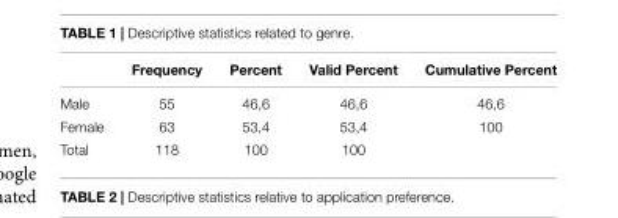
<table><thead><tr><td></td><td>Frequency</td><td>Percent</td><td>Valid Percent</td><td>Cumulative Percent</td></tr></thead><tbody><tr><td>Male</td><td>55</td><td>46,6</td><td>46,6</td><td>46,6</td></tr><tr><td>Female</td><td>63</td><td>53,4</td><td>53,4</td><td>100</td></tr><tr><td>Total</td><td>118</td><td>100</td><td>100</td><td></td></tr></tbody></table>